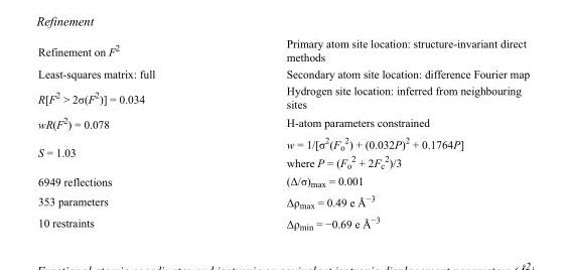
<table><tbody><tr><td>Refinement on F<sup>2</sup></td><td>Primary atom site location: structure-invariant direct methods</td></tr><tr><td>Least-squares matrix: full</td><td>Secondary atom site location: difference Fourier map</td></tr><tr><td>R[F<sup>2</sup> &gt; 2σ(F<sup>2</sup>)] = 0.034</td><td>Hydrogen site location: inferred from neighbouring sites</td></tr><tr><td>wR(F<sup>2</sup>) = 0.078</td><td>H-atom parameters constrained</td></tr><tr><td>S = 1.03</td><td>w = 1/[σ<sup>2</sup>(F<sub>o</sub> <sup>2</sup>) + (0.032P)<sup>2</sup> + 0.1764P] where P = (F<sub>o</sub> <sup>2</sup> + 2F<sub>c</sub> <sup>2</sup>)/3</td></tr><tr><td>6949 reflections</td><td>(Δ/σ)<sub>max</sub> = 0.001</td></tr><tr><td>353 parameters</td><td>Δρ<sub>max</sub> = 0.49 e Å<sup>−3</sup></td></tr><tr><td>10 restraints</td><td>Δρ<sub>min</sub> = −0.69 e Å<sup>−3</sup></td></tr></tbody></table>